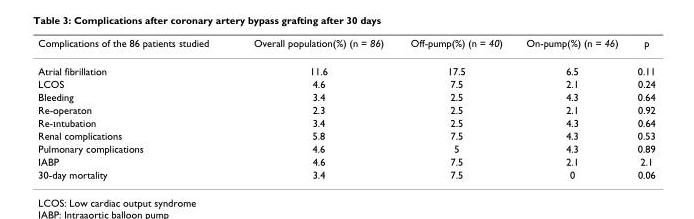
<table><thead><tr><td>Complications of the 86 patients studied</td><td>Overall population(%) (n = 86)</td><td>Off-pump(%) (n = 40)</td><td>On-pump(%) (n = 46)</td><td>p</td></tr></thead><tbody><tr><td>Atrial fibrillation</td><td>11.6</td><td>17.5</td><td>6.5</td><td>0.11</td></tr><tr><td>LCOS</td><td>4.6</td><td>7.5</td><td>2.1</td><td>0.24</td></tr><tr><td>Bleeding</td><td>3.4</td><td>2.5</td><td>4.3</td><td>0.64</td></tr><tr><td>Re-operaton</td><td>2.3</td><td>2.5</td><td>2.1</td><td>0.92</td></tr><tr><td>Re-ıntubation</td><td>3.4</td><td>2.5</td><td>4.3</td><td>0.64</td></tr><tr><td>Renal complications</td><td>5.8</td><td>7.5</td><td>4.3</td><td>0.53</td></tr><tr><td>Pulmonary complications</td><td>4.6</td><td>5</td><td>4.3</td><td>0.89</td></tr><tr><td>IABP</td><td>4.6</td><td>7.5</td><td>2.1</td><td>2.1</td></tr><tr><td>30-day mortality</td><td>3.4</td><td>7.5</td><td>0</td><td>0.06</td></tr></tbody></table>